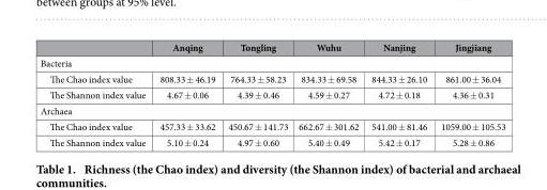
<table><thead><tr><td></td><td>Anqing</td><td>Tongling</td><td>Wuhu</td><td>Nanjing</td><td>Jingjiang</td></tr></thead><tbody><tr><td colspan="6">Bacteria</td></tr><tr><td>The Chao index value</td><td>808.33 ± 46.19</td><td>764.33 ± 58.23</td><td>834.33 ± 69.58</td><td>844.33 ± 26.10</td><td>861.00 ± 36.04</td></tr><tr><td>The Shannon index value</td><td>4.67 ± 0.06</td><td>4.39 ± 0.46</td><td>4.59 ± 0.27</td><td>4.72 ± 0.18</td><td>4.36 ± 0.31</td></tr><tr><td colspan="6">Archaea</td></tr><tr><td>The Chao index value</td><td>457.33 ± 33.62</td><td>450.67 ± 141.73</td><td>662.67 ± 301.62</td><td>541.00 ± 81.46</td><td>1059.00 ± 105.53</td></tr><tr><td>The Shannon index value</td><td>5.10 ± 0.24</td><td>4.97 ± 0.60</td><td>5.40 ± 0.49</td><td>5.42 ± 0.17</td><td>5.28 ± 0.86</td></tr></tbody></table>